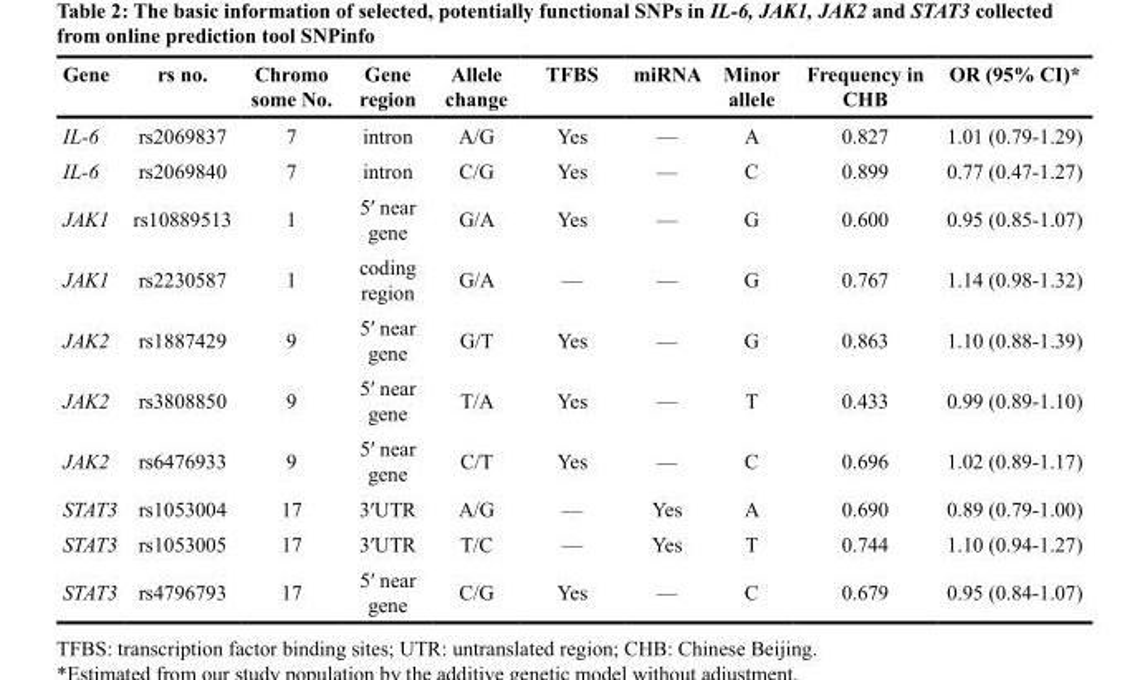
<table><thead><tr><td>Gene</td><td>rs no.</td><td>Chromo some No.</td><td>Gene region</td><td>Allele change</td><td>TFBS</td><td>miRNA</td><td>Minor allele</td><td>Frequency in CHB</td><td>OR (95% CI)*</td></tr></thead><tbody><tr><td>IL-6</td><td>rs2069837</td><td>7</td><td>intron</td><td>A/G</td><td>Yes</td><td>—</td><td>A</td><td>0.827</td><td>1.01 (0.79-1.29)</td></tr><tr><td>IL-6</td><td>rs2069840</td><td>7</td><td>intron</td><td>C/G</td><td>Yes</td><td>—</td><td>C</td><td>0.899</td><td>0.77 (0.47-1.27)</td></tr><tr><td>JAK1</td><td>rs10889513</td><td>1</td><td>5′ near gene</td><td>G/A</td><td>Yes</td><td>—</td><td>G</td><td>0.600</td><td>0.95 (0.85-1.07)</td></tr><tr><td>JAK1</td><td>rs2230587</td><td>1</td><td>coding region</td><td>G/A</td><td>—</td><td>—</td><td>G</td><td>0.767</td><td>1.14 (0.98-1.32)</td></tr><tr><td>JAK2</td><td>rs1887429</td><td>9</td><td>5′ near gene</td><td>G/T</td><td>Yes</td><td>—</td><td>G</td><td>0.863</td><td>1.10 (0.88-1.39)</td></tr><tr><td>JAK2</td><td>rs3808850</td><td>9</td><td>5′ near gene</td><td>T/A</td><td>Yes</td><td>—</td><td>T</td><td>0.433</td><td>0.99 (0.89-1.10)</td></tr><tr><td>JAK2</td><td>rs6476933</td><td>9</td><td>5′ near gene</td><td>C/T</td><td>Yes</td><td>—</td><td>C</td><td>0.696</td><td>1.02 (0.89-1.17)</td></tr><tr><td>STAT3</td><td>rs1053004</td><td>17</td><td>3′UTR</td><td>A/G</td><td>—</td><td>Yes</td><td>A</td><td>0.690</td><td>0.89 (0.79-1.00)</td></tr><tr><td>STAT3</td><td>rs1053005</td><td>17</td><td>3′UTR</td><td>T/C</td><td>—</td><td>Yes</td><td>T</td><td>0.744</td><td>1.10 (0.94-1.27)</td></tr><tr><td>STAT3</td><td>rs4796793</td><td>17</td><td>5′ near gene</td><td>C/G</td><td>Yes</td><td>—</td><td>C</td><td>0.679</td><td>0.95 (0.84-1.07)</td></tr></tbody></table>